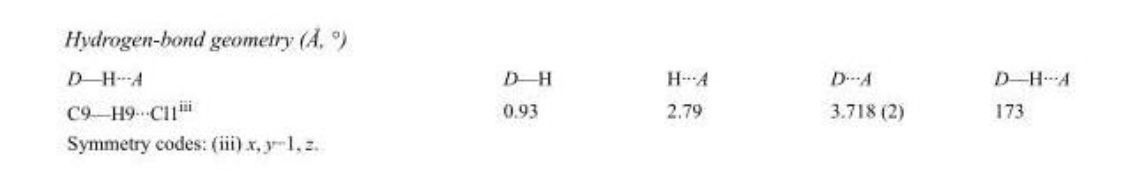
<table><tbody><tr><td>D—H···A</td><td>D—H</td><td>H···A</td><td>D···A</td><td>D—H···A</td></tr><tr><td>C9—H9···Cl1<sup>iii</sup></td><td>0.93</td><td>2.79</td><td>3.718 (2)</td><td>173</td></tr></tbody></table>